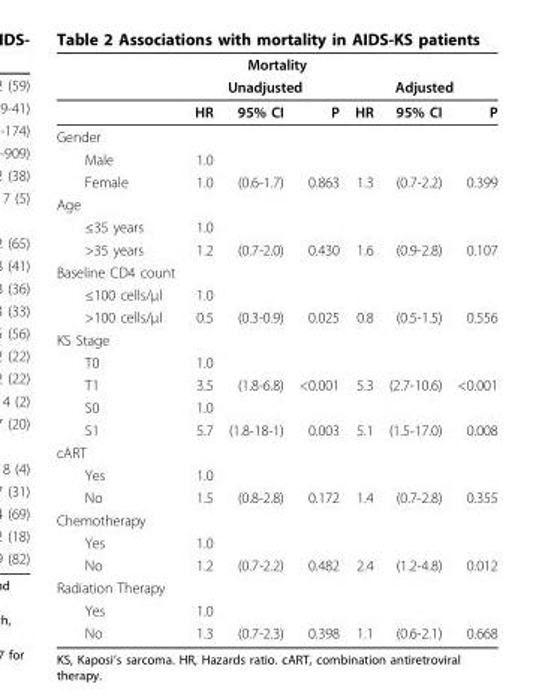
<table><thead><tr><td colspan="7">Mortality</td></tr><tr><td rowspan="2"></td><td colspan="3">Unadjusted</td><td colspan="3">Adjusted</td></tr><tr><td>HR</td><td>95% CI</td><td>P</td><td>HR</td><td>95% CI</td><td>P</td></tr></thead><tbody><tr><td colspan="7">Gender</td></tr><tr><td>Male</td><td>1.0</td><td></td><td></td><td></td><td></td><td></td></tr><tr><td>Female</td><td>1.0</td><td>(0.6-1.7)</td><td>0.863</td><td>1.3</td><td>(0.7-2.2)</td><td>0.399</td></tr><tr><td colspan="7">Age</td></tr><tr><td>≤35 years</td><td>1.0</td><td></td><td></td><td></td><td></td><td></td></tr><tr><td>&gt;35 years</td><td>1.2</td><td>(0.7-2.0)</td><td>0.430</td><td>1.6</td><td>(0.9-2.8)</td><td>0.107</td></tr><tr><td colspan="7">Baseline CD4 count</td></tr><tr><td>≤100 cells/μl</td><td>1.0</td><td></td><td></td><td></td><td></td><td></td></tr><tr><td>&gt;100 cells/μl</td><td>0.5</td><td>(0.3-0.9)</td><td>0.025</td><td>0.8</td><td>(0.5-1.5)</td><td>0.556</td></tr><tr><td colspan="7">KS Stage</td></tr><tr><td>T0</td><td>1.0</td><td></td><td></td><td></td><td></td><td></td></tr><tr><td>T1</td><td>3.5</td><td>(1.8-6.8)</td><td>&lt;0.001</td><td>5.3</td><td>(2.7-10.6)</td><td>&lt;0.001</td></tr><tr><td>S0</td><td>1.0</td><td></td><td></td><td></td><td></td><td></td></tr><tr><td>S1</td><td>5.7</td><td>(1.8-18-1)</td><td>0.003</td><td>5.1</td><td>(1.5-17.0)</td><td>0.008</td></tr><tr><td colspan="7">cART</td></tr><tr><td>Yes</td><td>1.0</td><td></td><td></td><td></td><td></td><td></td></tr><tr><td>No</td><td>1.5</td><td>(0.8-2.8)</td><td>0.172</td><td>1.4</td><td>(0.7-2.8)</td><td>0.355</td></tr><tr><td colspan="7">Chemotherapy</td></tr><tr><td>Yes</td><td>1.0</td><td></td><td></td><td></td><td></td><td></td></tr><tr><td>No</td><td>1.2</td><td>(0.7-2.2)</td><td>0.482</td><td>2.4</td><td>(1.2-4.8)</td><td>0.012</td></tr><tr><td colspan="7">Radiation Therapy</td></tr><tr><td>Yes</td><td>1.0</td><td></td><td></td><td></td><td></td><td></td></tr><tr><td>No</td><td>1.3</td><td>(0.7-2.3)</td><td>0.398</td><td>1.1</td><td>(0.6-2.1)</td><td>0.668</td></tr></tbody></table>